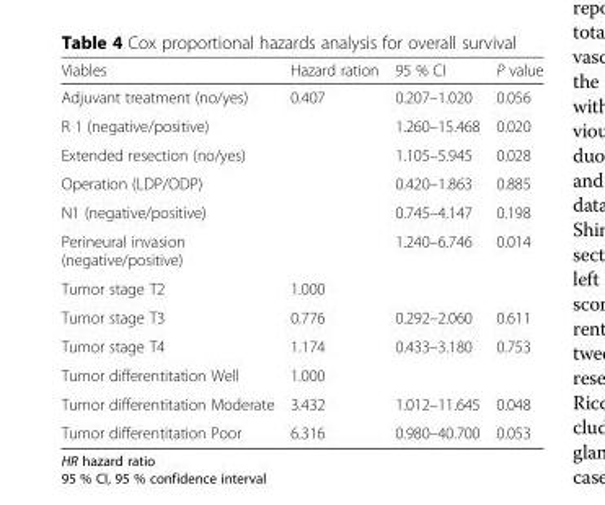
<table><thead><tr><td>Viables</td><td>Hazard ration</td><td>95 % CI</td><td>P value</td></tr></thead><tbody><tr><td>Adjuvant treatment (no/yes)</td><td>0.407</td><td>0.207–1.020</td><td>0.056</td></tr><tr><td>R 1 (negative/positive)</td><td></td><td>1.260–15.468</td><td>0.020</td></tr><tr><td>Extended resection (no/yes)</td><td></td><td>1.105–5.945</td><td>0.028</td></tr><tr><td>Operation (LDP/ODP)</td><td></td><td>0.420–1.863</td><td>0.885</td></tr><tr><td>N1 (negative/positive)</td><td></td><td>0.745–4.147</td><td>0.198</td></tr><tr><td>Perineural invasion (negative/positive)</td><td></td><td>1.240–6.746</td><td>0.014</td></tr><tr><td>Tumor stage T2</td><td>1.000</td><td></td><td></td></tr><tr><td>Tumor stage T3</td><td>0.776</td><td>0.292–2.060</td><td>0.611</td></tr><tr><td>Tumor stage T4</td><td>1.174</td><td>0.433–3.180</td><td>0.753</td></tr><tr><td>Tumor differentitation Well</td><td>1.000</td><td></td><td></td></tr><tr><td>Tumor differentitation Moderate</td><td>3.432</td><td>1.012–11.645</td><td>0.048</td></tr><tr><td>Tumor differentitation Poor</td><td>6.316</td><td>0.980–40.700</td><td>0.053</td></tr></tbody></table>